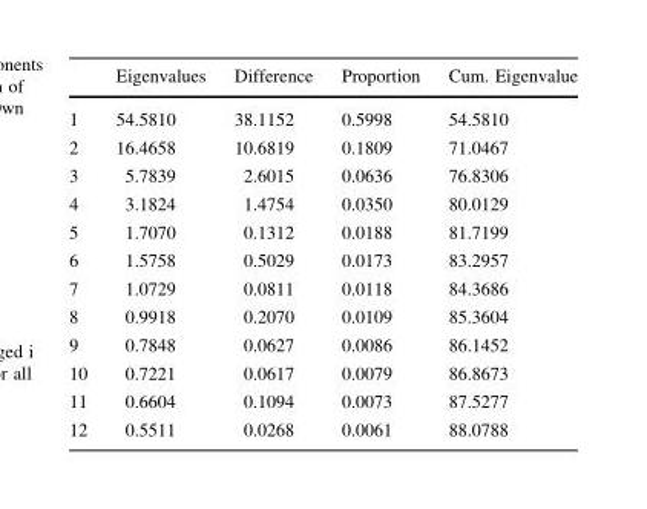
<table><thead><tr><td></td><td>Eigenvalues</td><td>Difference</td><td>Proportion</td><td>Cum. Eigenvalue</td></tr></thead><tbody><tr><td>1</td><td>54.5810</td><td>38.1152</td><td>0.5998</td><td>54.5810</td></tr><tr><td>2</td><td>16.4658</td><td>10.6819</td><td>0.1809</td><td>71.0467</td></tr><tr><td>3</td><td>5.7839</td><td>2.6015</td><td>0.0636</td><td>76.8306</td></tr><tr><td>4</td><td>3.1824</td><td>1.4754</td><td>0.0350</td><td>80.0129</td></tr><tr><td>5</td><td>1.7070</td><td>0.1312</td><td>0.0188</td><td>81.7199</td></tr><tr><td>6</td><td>1.5758</td><td>0.5029</td><td>0.0173</td><td>83.2957</td></tr><tr><td>7</td><td>1.0729</td><td>0.0811</td><td>0.0118</td><td>84.3686</td></tr><tr><td>8</td><td>0.9918</td><td>0.2070</td><td>0.0109</td><td>85.3604</td></tr><tr><td>9</td><td>0.7848</td><td>0.0627</td><td>0.0086</td><td>86.1452</td></tr><tr><td>10</td><td>0.7221</td><td>0.0617</td><td>0.0079</td><td>86.8673</td></tr><tr><td>11</td><td>0.6604</td><td>0.1094</td><td>0.0073</td><td>87.5277</td></tr><tr><td>12</td><td>0.5511</td><td>0.0268</td><td>0.0061</td><td>88.0788</td></tr></tbody></table>